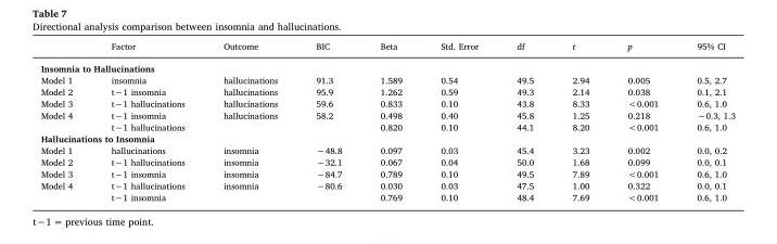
<table><thead><tr><td></td><td>Factor</td><td>Outcome</td><td>BIC</td><td>Beta</td><td>Std. Error</td><td>df</td><td>t</td><td>p</td><td>95% CI</td></tr></thead><tbody><tr><td colspan="10">Insomnia to Hallucinations</td></tr><tr><td>Model 1</td><td>insomnia</td><td>hallucinations</td><td>91.3</td><td>1.589</td><td>0.54</td><td>49.5</td><td>2.94</td><td>0.005</td><td>0.5, 2.7</td></tr><tr><td>Model 2</td><td>t−1 insomnia</td><td>hallucinations</td><td>95.9</td><td>1.262</td><td>0.59</td><td>49.3</td><td>2.14</td><td>0.038</td><td>0.1, 2.1</td></tr><tr><td>Model 3</td><td>t−1 hallucinations</td><td>hallucinations</td><td>59.6</td><td>0.833</td><td>0.10</td><td>43.8</td><td>8.33</td><td>&lt;0.001</td><td>0.6, 1.0</td></tr><tr><td rowspan="2">Model 4</td><td>t−1 insomnia</td><td>hallucinations</td><td>58.2</td><td>0.498</td><td>0.40</td><td>45.8</td><td>1.25</td><td>0.218</td><td>−0.3, 1.3</td></tr><tr><td>t−1 hallucinations</td><td></td><td></td><td>0.820</td><td>0.10</td><td>44.1</td><td>8.20</td><td>&lt;0.001</td><td>0.6, 1.0</td></tr><tr><td colspan="10">Hallucinations to Insomnia</td></tr><tr><td>Model 1</td><td>hallucinations</td><td>insomnia</td><td>−48.8</td><td>0.097</td><td>0.03</td><td>45.4</td><td>3.23</td><td>0.002</td><td>0.0, 0.2</td></tr><tr><td>Model 2</td><td>t−1 hallucinations</td><td>insomnia</td><td>−32.1</td><td>0.067</td><td>0.04</td><td>50.0</td><td>1.68</td><td>0.099</td><td>0.0, 0.1</td></tr><tr><td>Model 3</td><td>t−1 insomnia</td><td>insomnia</td><td>−84.7</td><td>0.789</td><td>0.10</td><td>49.5</td><td>7.89</td><td>&lt;0.001</td><td>0.6, 1.0</td></tr><tr><td rowspan="2">Model 4</td><td>t−1 hallucinations</td><td>insomnia</td><td>−80.6</td><td>0.030</td><td>0.03</td><td>47.5</td><td>1.00</td><td>0.322</td><td>0.0, 0.1</td></tr><tr><td>t−1 insomnia</td><td></td><td></td><td>0.769</td><td>0.10</td><td>48.4</td><td>7.69</td><td>&lt;0.001</td><td>0.6, 1.0</td></tr></tbody></table>